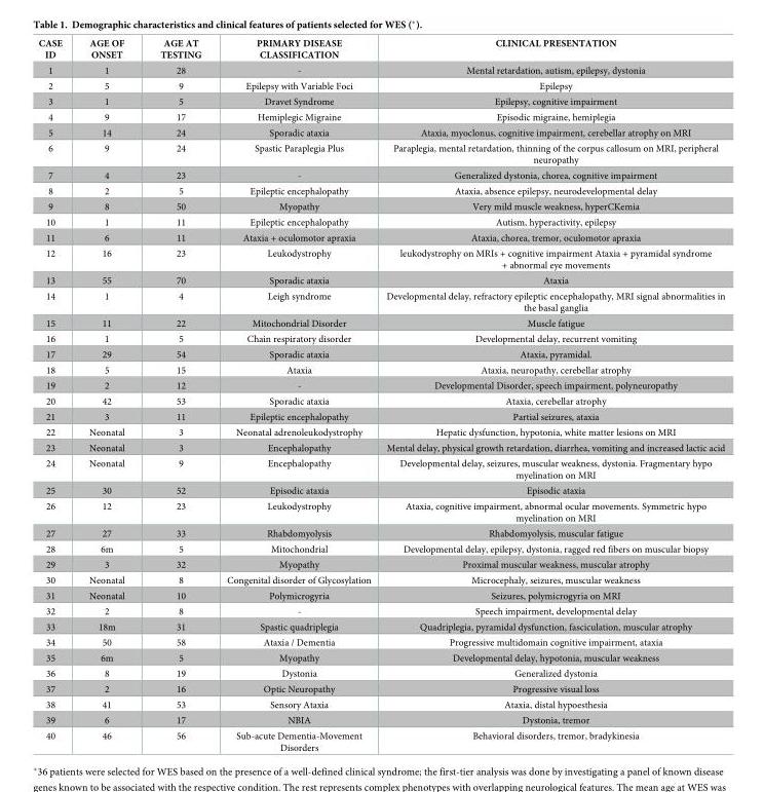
<table><thead><tr><td>CASE ID</td><td>AGE OF ONSET</td><td>AGE AT TESTING</td><td>PRIMARY DISEASE CLASSIFICATION</td><td>CLINICAL PRESENTATION</td></tr></thead><tbody><tr><td>1</td><td>1</td><td>28</td><td>-</td><td>Mental retardation, autism, epilepsy, dystonia</td></tr><tr><td>2</td><td>5</td><td>9</td><td>Epilepsy with Variable Foci</td><td>Epilepsy</td></tr><tr><td>3</td><td>1</td><td>5</td><td>Dravet Syndrome</td><td>Epilepsy, cognitive impairment</td></tr><tr><td>4</td><td>9</td><td>17</td><td>Hemiplegic Migraine</td><td>Episodic migraine, hemiplegia</td></tr><tr><td>5</td><td>14</td><td>24</td><td>Sporadic ataxia</td><td>Ataxia, myoclonus, cognitive impairment, cerebellar atrophy on MRI</td></tr><tr><td>6</td><td>9</td><td>24</td><td>Spastic Paraplegia Plus</td><td>Paraplegia, mental retardation, thinning of the corpus callosum on MRI, peripheral neuropathy</td></tr><tr><td>7</td><td>4</td><td>23</td><td>-</td><td>Generalized dystonia, chorea, cognitive impairment</td></tr><tr><td>8</td><td>2</td><td>5</td><td>Epileptic encephalopathy</td><td>Ataxia, absence epilepsy, neurodevelopmental delay</td></tr><tr><td>9</td><td>8</td><td>50</td><td>Myopathy</td><td>Very mild muscle weakness, hyperCKemia</td></tr><tr><td>10</td><td>1</td><td>11</td><td>Epileptic encephalopathy</td><td>Autism, hyperactivity, epilepsy</td></tr><tr><td>11</td><td>6</td><td>11</td><td>Ataxia + oculomotor apraxia</td><td>Ataxia, chorea, tremor, oculomotor apraxia</td></tr><tr><td>12</td><td>16</td><td>23</td><td>Leukodystrophy</td><td>leukodystrophy on MRIs + cognitive impairment Ataxia + pyramidal syndrome + abnormal eye movements</td></tr><tr><td>13</td><td>55</td><td>70</td><td>Sporadic ataxia</td><td>Ataxia</td></tr><tr><td>14</td><td>1</td><td>4</td><td>Leigh syndrome</td><td>Developmental delay, refractory epileptic encephalopathy, MRI signal abnormalities in the basal ganglia</td></tr><tr><td>15</td><td>11</td><td>22</td><td>Mitochondrial Disorder</td><td>Muscle fatigue</td></tr><tr><td>16</td><td>1</td><td>5</td><td>Chain respiratory disorder</td><td>Developmental delay, recurrent vomiting</td></tr><tr><td>17</td><td>29</td><td>54</td><td>Sporadic ataxia</td><td>Ataxia, pyramidal.</td></tr><tr><td>18</td><td>5</td><td>15</td><td>Ataxia</td><td>Ataxia, neuropathy, cerebellar atrophy</td></tr><tr><td>19</td><td>2</td><td>12</td><td>-</td><td>Developmental Disorder, speech impairment, polyneuropathy</td></tr><tr><td>20</td><td>42</td><td>53</td><td>Sporadic ataxia</td><td>Ataxia, cerebellar atrophy</td></tr><tr><td>21</td><td>3</td><td>11</td><td>Epileptic encephalopathy</td><td>Partial seizures, ataxia</td></tr><tr><td>22</td><td>Neonatal</td><td>3</td><td>Neonatal adrenoleukodystrophy</td><td>Hepatic dysfunction, hypotonia, white matter lesions on MRI</td></tr><tr><td>23</td><td>Neonatal</td><td>3</td><td>Encephalopathy</td><td>Mental delay, physical growth retardation, diarrhea, vomiting and increased lactic acid</td></tr><tr><td>24</td><td>Neonatal</td><td>9</td><td>Encephalopathy</td><td>Developmental delay, seizures, muscular weakness, dystonia. Fragmentary hypo myelination on MRI</td></tr><tr><td>25</td><td>30</td><td>52</td><td>Episodic ataxia</td><td>Episodic ataxia</td></tr><tr><td>26</td><td>12</td><td>23</td><td>Leukodystrophy</td><td>Ataxia, cognitive impairment, abnormal ocular movements. Symmetric hypo myelination on MRI</td></tr><tr><td>27</td><td>27</td><td>33</td><td>Rhabdomyolysis</td><td>Rhabdomyolysis, muscular fatigue</td></tr><tr><td>28</td><td>6m</td><td>5</td><td>Mitochondrial</td><td>Developmental delay, epilepsy, dystonia, ragged red fibers on muscular biopsy</td></tr><tr><td>29</td><td>3</td><td>32</td><td>Myopathy</td><td>Proximal muscular weakness, muscular atrophy</td></tr><tr><td>30</td><td>Neonatal</td><td>8</td><td>Congenital disorder of Glycosylation</td><td>Microcephaly, seizures, muscular weakness</td></tr><tr><td>31</td><td>Neonatal</td><td>10</td><td>Polymicrogyria</td><td>Seizures, polymicrogyria on MRI</td></tr><tr><td>32</td><td>2</td><td>8</td><td>-</td><td>Speech impairment, developmental delay</td></tr><tr><td>33</td><td>18m</td><td>31</td><td>Spastic quadriplegia</td><td>Quadriplegia, pyramidal dysfunction, fasciculation, muscular atrophy</td></tr><tr><td>34</td><td>50</td><td>58</td><td>Ataxia / Dementia</td><td>Progressive multidomain cognitive impairment, ataxia</td></tr><tr><td>35</td><td>6m</td><td>5</td><td>Myopathy</td><td>Developmental delay, hypotonia, muscular weakness</td></tr><tr><td>36</td><td>8</td><td>19</td><td>Dystonia</td><td>Generalized dystonia</td></tr><tr><td>37</td><td>2</td><td>16</td><td>Optic Neuropathy</td><td>Progressive visual loss</td></tr><tr><td>38</td><td>41</td><td>53</td><td>Sensory Ataxia</td><td>Ataxia, distal hypoesthesia</td></tr><tr><td>39</td><td>6</td><td>17</td><td>NBIA</td><td>Dystonia, tremor</td></tr><tr><td>40</td><td>46</td><td>56</td><td>Sub-acute Dementia-Movement Disorders</td><td>Behavioral disorders, tremor, bradykinesia</td></tr></tbody></table>